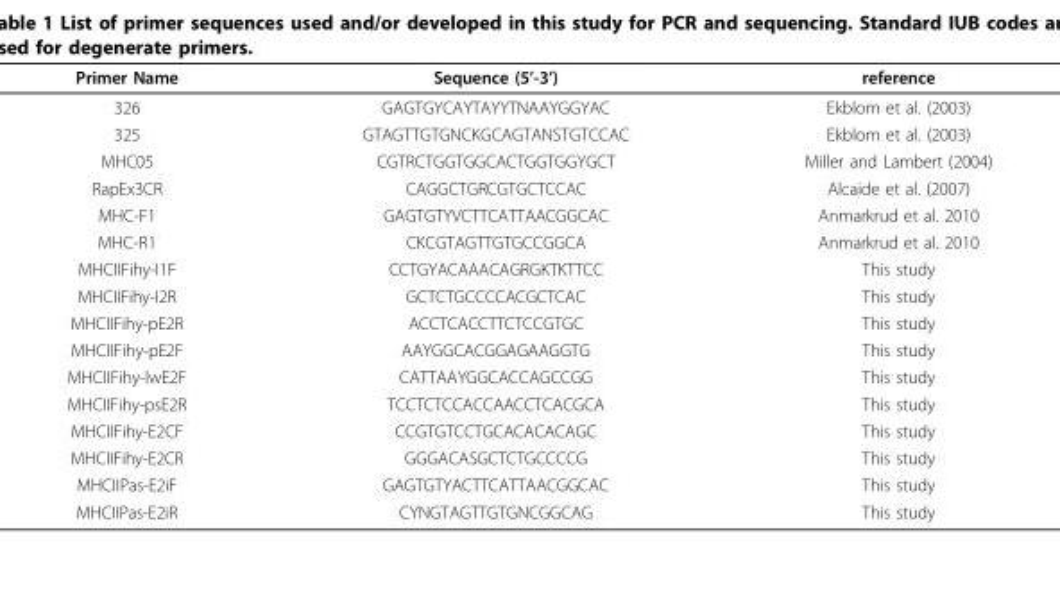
<table><thead><tr><td>Primer Name</td><td>Sequence (5’-3’)</td><td>reference</td></tr></thead><tbody><tr><td>326</td><td>GAGTGYCAYTAYYTNAAYGGYAC</td><td>Ekblom et al. (2003)</td></tr><tr><td>325</td><td>GTAGTTGTGNCKGCAGTANSTGTCCAC</td><td>Ekblom et al. (2003)</td></tr><tr><td>MHC05</td><td>CGTRCTGGTGGCACTGGTGGYGCT</td><td>Miller and Lambert (2004)</td></tr><tr><td>RapEx3CR</td><td>CAGGCTGRCGTGCTCCAC</td><td>Alcaide et al. (2007)</td></tr><tr><td>MHC-F1</td><td>GAGTGTYVCTTCATTAACGGCAC</td><td>Anmarkrud et al. 2010</td></tr><tr><td>MHC-R1</td><td>CKCGTAGTTGTGCCGGCA</td><td>Anmarkrud et al. 2010</td></tr><tr><td>MHCIIFihy-I1F</td><td>CCTGYACAAACAGRGKTKTTCC</td><td>This study</td></tr><tr><td>MHCIIFihy-I2R</td><td>GCTCTGCCCCACGCTCAC</td><td>This study</td></tr><tr><td>MHCIIFihy-pE2R</td><td>ACCTCACCTTCTCCGTGC</td><td>This study</td></tr><tr><td>MHCIIFihy-pE2F</td><td>AAYGGCACGGAGAAGGTG</td><td>This study</td></tr><tr><td>MHCIIFihy-lwE2F</td><td>CATTAAYGGCACCAGCCGG</td><td>This study</td></tr><tr><td>MHCIIFihy-psE2R</td><td>TCCTCTCCACCAACCTCACGCA</td><td>This study</td></tr><tr><td>MHCIIFihy-E2CF</td><td>CCGTGTCCTGCACACACAGC</td><td>This study</td></tr><tr><td>MHCIIFihy-E2CR</td><td>GGGACASGCTCTGCCCCG</td><td>This study</td></tr><tr><td>MHCIIPas-E2iF</td><td>GAGTGTYACTTCATTAACGGCAC</td><td>This study</td></tr><tr><td>MHCIIPas-E2iR</td><td>CYNGTAGTTGTGNCGGCAG</td><td>This study</td></tr></tbody></table>